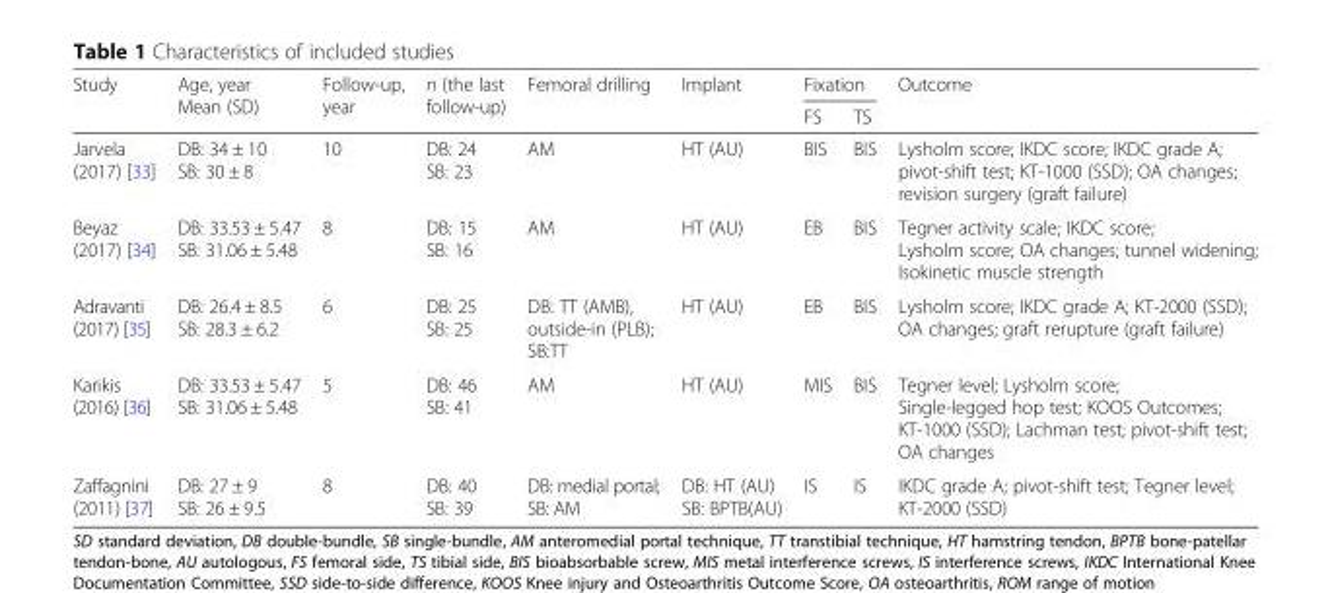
<table><thead><tr><td rowspan="2">Study</td><td rowspan="2">Age, year Mean (SD)</td><td rowspan="2">Follow-up, year</td><td rowspan="2">n (the last follow-up)</td><td rowspan="2">Femoral drilling</td><td rowspan="2">Implant</td><td colspan="2">Fixation</td><td rowspan="2">Outcome</td></tr><tr><td>FS</td><td>TS</td></tr></thead><tbody><tr><td>Jarvela (2017) [33]</td><td>DB: 34 ± 10 SB: 30 ± 8</td><td>10</td><td>DB: 24 SB: 23</td><td>AM</td><td>HT (AU)</td><td>BIS</td><td>BIS</td><td>Lysholm score; IKDC score; IKDC grade A; pivot-shift test; KT-1000 (SSD); OA changes; revision surgery (graft failure)</td></tr><tr><td>Beyaz (2017) [34]</td><td>DB: 33.53 ± 5.47 SB: 31.06 ± 5.48</td><td>8</td><td>DB: 15 SB: 16</td><td>AM</td><td>HT (AU)</td><td>EB</td><td>BIS</td><td>Tegner activity scale; IKDC score; Lysholm score; OA changes; tunnel widening; Isokinetic muscle strength</td></tr><tr><td>Adravanti (2017) [35]</td><td>DB: 26.4 ± 8.5 SB: 28.3 ± 6.2</td><td>6</td><td>DB: 25 SB: 25</td><td>DB: TT (AMB), outside-in (PLB); SB:TT</td><td>HT (AU)</td><td>EB</td><td>BIS</td><td>Lysholm score; IKDC grade A; KT-2000 (SSD); OA changes; graft rerupture (graft failure)</td></tr><tr><td>Karikis (2016) [36]</td><td>DB: 33.53 ± 5.47 SB: 31.06 ± 5.48</td><td>5</td><td>DB: 46 SB: 41</td><td>AM</td><td>HT (AU)</td><td>MIS</td><td>BIS</td><td>Tegner level; Lysholm score; Single-legged hop test; KOOS Outcomes; KT-1000 (SSD); Lachman test; pivot-shift test; OA changes</td></tr><tr><td>Zaffagnini (2011) [37]</td><td>DB: 27 ± 9 SB: 26 ± 9.5</td><td>8</td><td>DB: 40 SB: 39</td><td>DB: medial portal; SB: AM</td><td>DB: HT (AU) SB: BPTB(AU)</td><td>IS</td><td>IS</td><td>IKDC grade A; pivot-shift test; Tegner level; KT-2000 (SSD)</td></tr></tbody></table>